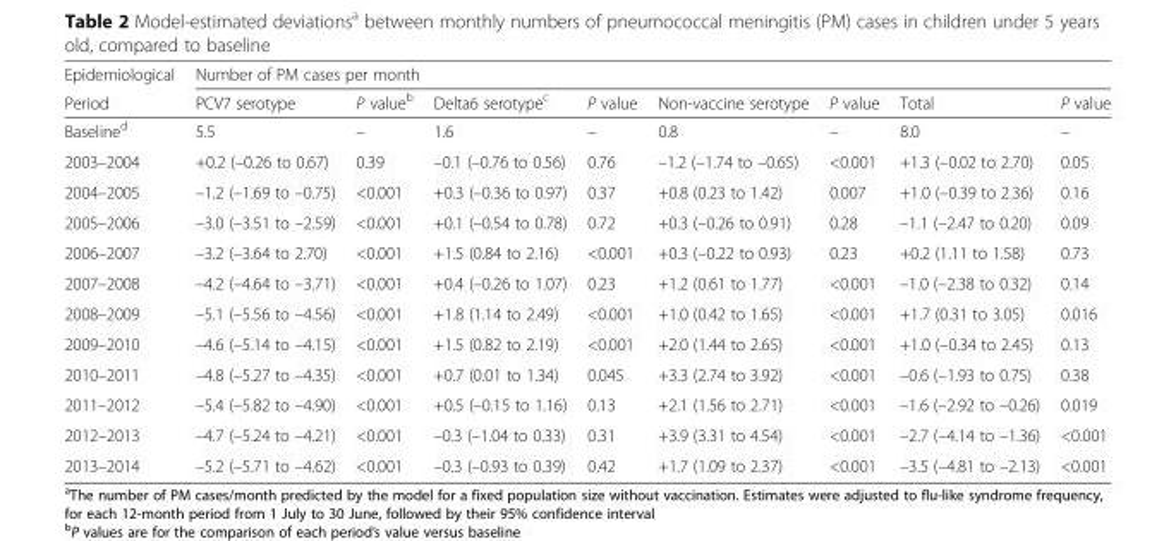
<table><thead><tr><td rowspan="2">Epidemiological Period</td><td colspan="8">Number of PM cases per month</td></tr><tr><td>PCV7 serotype</td><td>P value<sup>b</sup></td><td>Delta6 serotype<sup>c</sup></td><td>P value</td><td>Non-vaccine serotype</td><td>P value</td><td>Total</td><td>P value</td></tr></thead><tbody><tr><td>Baseline<sup>d</sup></td><td>5.5</td><td>–</td><td>1.6</td><td>–</td><td>0.8</td><td>–</td><td>8.0</td><td>–</td></tr><tr><td>2003–2004</td><td>+0.2 (–0.26 to 0.67)</td><td>0.39</td><td>–0.1 (–0.76 to 0.56)</td><td>0.76</td><td>–1.2 (–1.74 to –0.65)</td><td>&lt;0.001</td><td>+1.3 (–0.02 to 2.70)</td><td>0.05</td></tr><tr><td>2004–2005</td><td>–1.2 (–1.69 to –0.75)</td><td>&lt;0.001</td><td>+0.3 (–0.36 to 0.97)</td><td>0.37</td><td>+0.8 (0.23 to 1.42)</td><td>0.007</td><td>+1.0 (–0.39 to 2.36)</td><td>0.16</td></tr><tr><td>2005–2006</td><td>–3.0 (–3.51 to –2.59)</td><td>&lt;0.001</td><td>+0.1 (–0.54 to 0.78)</td><td>0.72</td><td>+0.3 (–0.26 to 0.91)</td><td>0.28</td><td>–1.1 (–2.47 to 0.20)</td><td>0.09</td></tr><tr><td>2006–2007</td><td>–3.2 (–3.64 to 2.70)</td><td>&lt;0.001</td><td>+1.5 (0.84 to 2.16)</td><td>&lt;0.001</td><td>+0.3 (–0.22 to 0.93)</td><td>0.23</td><td>+0.2 (1.11 to 1.58)</td><td>0.73</td></tr><tr><td>2007–2008</td><td>–4.2 (–4.64 to –3.71)</td><td>&lt;0.001</td><td>+0.4 (–0.26 to 1.07)</td><td>0.23</td><td>+1.2 (0.61 to 1.77)</td><td>&lt;0.001</td><td>–1.0 (–2.38 to 0.32)</td><td>0.14</td></tr><tr><td>2008–2009</td><td>–5.1 (–5.56 to –4.56)</td><td>&lt;0.001</td><td>+1.8 (1.14 to 2.49)</td><td>&lt;0.001</td><td>+1.0 (0.42 to 1.65)</td><td>&lt;0.001</td><td>+1.7 (0.31 to 3.05)</td><td>0.016</td></tr><tr><td>2009–2010</td><td>–4.6 (–5.14 to –4.15)</td><td>&lt;0.001</td><td>+1.5 (0.82 to 2.19)</td><td>&lt;0.001</td><td>+2.0 (1.44 to 2.65)</td><td>&lt;0.001</td><td>+1.0 (–0.34 to 2.45)</td><td>0.13</td></tr><tr><td>2010–2011</td><td>–4.8 (–5.27 to –4.35)</td><td>&lt;0.001</td><td>+0.7 (0.01 to 1.34)</td><td>0.045</td><td>+3.3 (2.74 to 3.92)</td><td>&lt;0.001</td><td>–0.6 (–1.93 to 0.75)</td><td>0.38</td></tr><tr><td>2011–2012</td><td>–5.4 (–5.82 to –4.90)</td><td>&lt;0.001</td><td>+0.5 (–0.15 to 1.16)</td><td>0.13</td><td>+2.1 (1.56 to 2.71)</td><td>&lt;0.001</td><td>–1.6 (–2.92 to –0.26)</td><td>0.019</td></tr><tr><td>2012–2013</td><td>–4.7 (–5.24 to –4.21)</td><td>&lt;0.001</td><td>–0.3 (–1.04 to 0.33)</td><td>0.31</td><td>+3.9 (3.31 to 4.54)</td><td>&lt;0.001</td><td>–2.7 (–4.14 to –1.36)</td><td>&lt;0.001</td></tr><tr><td>2013–2014</td><td>–5.2 (–5.71 to –4.62)</td><td>&lt;0.001</td><td>–0.3 (–0.93 to 0.39)</td><td>0.42</td><td>+1.7 (1.09 to 2.37)</td><td>&lt;0.001</td><td>–3.5 (–4.81 to –2.13)</td><td>&lt;0.001</td></tr></tbody></table>